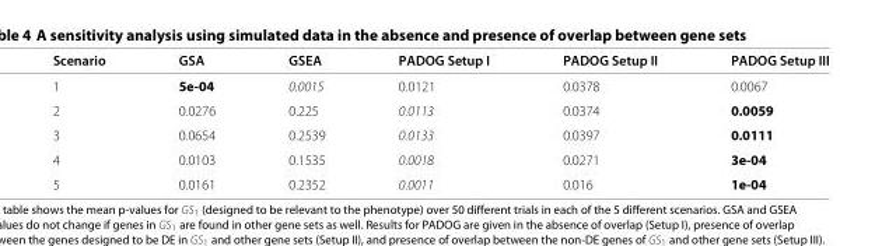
<table><thead><tr><td>Scenario</td><td>GSA</td><td>GSEA</td><td>PADOG Setup I</td><td>PADOG Setup II</td><td>PADOG Setup III</td></tr></thead><tbody><tr><td>1</td><td>5e-04</td><td>0.0015</td><td>0.0121</td><td>0.0378</td><td>0.0067</td></tr><tr><td>2</td><td>0.0276</td><td>0.225</td><td>0.0113</td><td>0.0374</td><td>0.0059</td></tr><tr><td>3</td><td>0.0654</td><td>0.2539</td><td>0.0133</td><td>0.0397</td><td>0.0111</td></tr><tr><td>4</td><td>0.0103</td><td>0.1535</td><td>0.0018</td><td>0.0271</td><td>3e-04</td></tr><tr><td>5</td><td>0.0161</td><td>0.2352</td><td>0.0011</td><td>0.016</td><td>1e-04</td></tr></tbody></table>